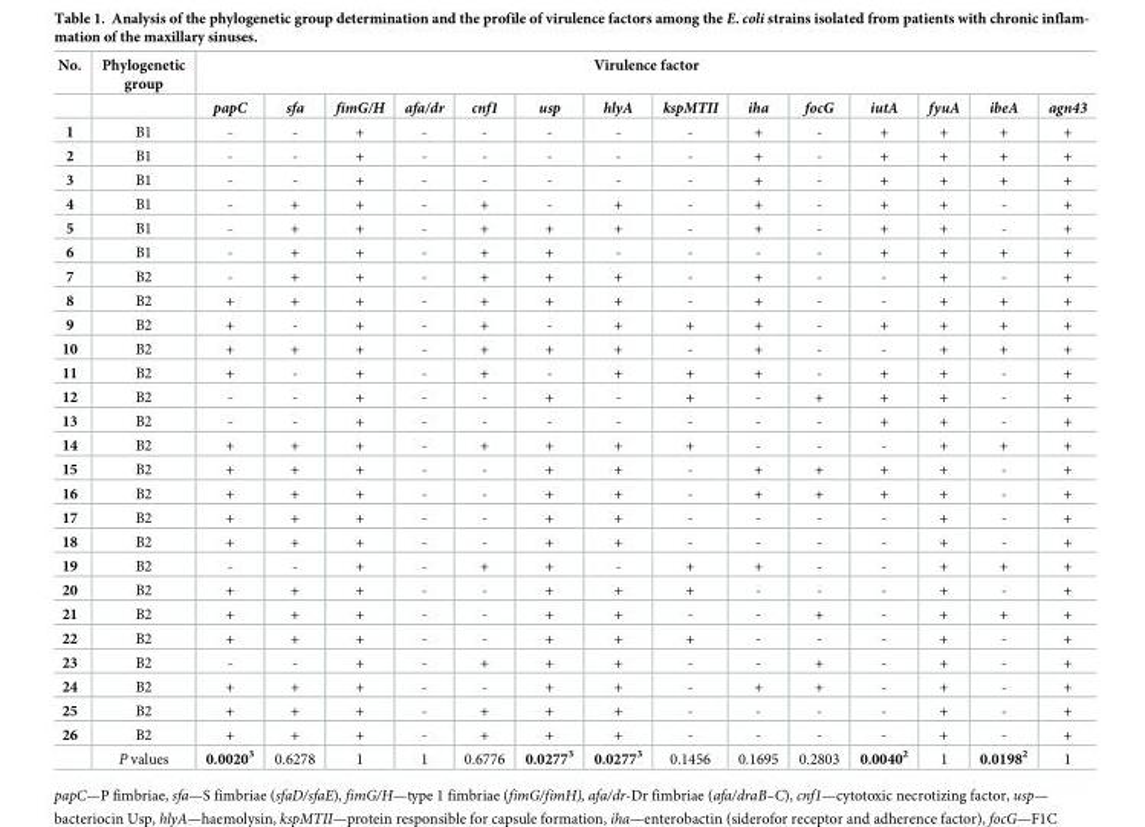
<table><thead><tr><td rowspan="2">No.</td><td rowspan="2">Phylogenetic group</td><td colspan="14">Virulence factor</td></tr><tr><td>papC</td><td>sfa</td><td>fimG/H</td><td>afa/dr</td><td>cnf1</td><td>usp</td><td>hlyA</td><td>kspMTII</td><td>iha</td><td>focG</td><td>iutA</td><td>fyuA</td><td>ibeA</td><td>agn43</td></tr></thead><tbody><tr><td>1</td><td>B1</td><td>-</td><td>-</td><td>+</td><td>-</td><td>-</td><td>-</td><td>-</td><td>-</td><td>+</td><td>-</td><td>+</td><td>+</td><td>+</td><td>+</td></tr><tr><td>2</td><td>B1</td><td>-</td><td>-</td><td>+</td><td>-</td><td>-</td><td>-</td><td>-</td><td>-</td><td>+</td><td>-</td><td>+</td><td>+</td><td>+</td><td>+</td></tr><tr><td>3</td><td>B1</td><td>-</td><td>-</td><td>+</td><td>-</td><td>-</td><td>-</td><td>-</td><td>-</td><td>+</td><td>-</td><td>+</td><td>+</td><td>+</td><td>+</td></tr><tr><td>4</td><td>B1</td><td>-</td><td>+</td><td>+</td><td>-</td><td>+</td><td>-</td><td>+</td><td>-</td><td>+</td><td>-</td><td>+</td><td>+</td><td>-</td><td>+</td></tr><tr><td>5</td><td>B1</td><td>-</td><td>+</td><td>+</td><td>-</td><td>+</td><td>+</td><td>+</td><td>-</td><td>+</td><td>-</td><td>+</td><td>+</td><td>-</td><td>+</td></tr><tr><td>6</td><td>B1</td><td>-</td><td>+</td><td>+</td><td>-</td><td>+</td><td>+</td><td>-</td><td>-</td><td>-</td><td>-</td><td>+</td><td>+</td><td>+</td><td>+</td></tr><tr><td>7</td><td>B2</td><td>-</td><td>+</td><td>+</td><td>-</td><td>+</td><td>+</td><td>+</td><td>-</td><td>+</td><td>-</td><td>-</td><td>+</td><td>-</td><td>+</td></tr><tr><td>8</td><td>B2</td><td>+</td><td>+</td><td>+</td><td>-</td><td>+</td><td>+</td><td>+</td><td>-</td><td>+</td><td>-</td><td>-</td><td>+</td><td>+</td><td>+</td></tr><tr><td>9</td><td>B2</td><td>+</td><td>-</td><td>+</td><td>-</td><td>+</td><td>-</td><td>+</td><td>+</td><td>+</td><td>-</td><td>+</td><td>+</td><td>+</td><td>+</td></tr><tr><td>10</td><td>B2</td><td>+</td><td>+</td><td>+</td><td>-</td><td>+</td><td>+</td><td>+</td><td>-</td><td>+</td><td>-</td><td>-</td><td>+</td><td>+</td><td>+</td></tr><tr><td>11</td><td>B2</td><td>+</td><td>-</td><td>+</td><td>-</td><td>+</td><td>-</td><td>+</td><td>+</td><td>+</td><td>-</td><td>+</td><td>+</td><td>-</td><td>+</td></tr><tr><td>12</td><td>B2</td><td>-</td><td>-</td><td>+</td><td>-</td><td>-</td><td>+</td><td>-</td><td>+</td><td>-</td><td>+</td><td>+</td><td>+</td><td>-</td><td>+</td></tr><tr><td>13</td><td>B2</td><td>-</td><td>-</td><td>+</td><td>-</td><td>-</td><td>-</td><td>-</td><td>-</td><td>-</td><td>-</td><td>+</td><td>+</td><td>-</td><td>+</td></tr><tr><td>14</td><td>B2</td><td>+</td><td>+</td><td>+</td><td>-</td><td>+</td><td>+</td><td>+</td><td>+</td><td>-</td><td>-</td><td>-</td><td>+</td><td>+</td><td>+</td></tr><tr><td>15</td><td>B2</td><td>+</td><td>+</td><td>+</td><td>-</td><td>-</td><td>+</td><td>+</td><td>-</td><td>+</td><td>+</td><td>+</td><td>+</td><td>-</td><td>+</td></tr><tr><td>16</td><td>B2</td><td>+</td><td>+</td><td>+</td><td>-</td><td>-</td><td>+</td><td>+</td><td>-</td><td>+</td><td>+</td><td>+</td><td>+</td><td>-</td><td>+</td></tr><tr><td>17</td><td>B2</td><td>+</td><td>+</td><td>+</td><td>-</td><td>-</td><td>+</td><td>+</td><td>-</td><td>-</td><td>-</td><td>-</td><td>+</td><td>-</td><td>+</td></tr><tr><td>18</td><td>B2</td><td>+</td><td>+</td><td>+</td><td>-</td><td>-</td><td>+</td><td>+</td><td>-</td><td>-</td><td>-</td><td>-</td><td>+</td><td>-</td><td>+</td></tr><tr><td>19</td><td>B2</td><td>-</td><td>-</td><td>+</td><td>-</td><td>+</td><td>+</td><td>-</td><td>+</td><td>+</td><td>-</td><td>-</td><td>+</td><td>+</td><td>+</td></tr><tr><td>20</td><td>B2</td><td>+</td><td>+</td><td>+</td><td>-</td><td>-</td><td>+</td><td>+</td><td>+</td><td>-</td><td>-</td><td>-</td><td>+</td><td>-</td><td>+</td></tr><tr><td>21</td><td>B2</td><td>+</td><td>+</td><td>+</td><td>-</td><td>-</td><td>+</td><td>+</td><td>-</td><td>-</td><td>+</td><td>-</td><td>+</td><td>+</td><td>+</td></tr><tr><td>22</td><td>B2</td><td>+</td><td>+</td><td>+</td><td>-</td><td>-</td><td>+</td><td>+</td><td>+</td><td>-</td><td>-</td><td>-</td><td>+</td><td>-</td><td>+</td></tr><tr><td>23</td><td>B2</td><td>-</td><td>-</td><td>+</td><td>-</td><td>+</td><td>+</td><td>+</td><td>-</td><td>-</td><td>+</td><td>-</td><td>+</td><td>-</td><td>+</td></tr><tr><td>24</td><td>B2</td><td>+</td><td>+</td><td>+</td><td>-</td><td>-</td><td>+</td><td>+</td><td>-</td><td>+</td><td>+</td><td>-</td><td>+</td><td>-</td><td>+</td></tr><tr><td>25</td><td>B2</td><td>+</td><td>+</td><td>+</td><td>-</td><td>+</td><td>+</td><td>+</td><td>-</td><td>-</td><td>-</td><td>-</td><td>+</td><td>-</td><td>+</td></tr><tr><td rowspan="2">26</td><td>B2</td><td>+</td><td>+</td><td>+</td><td>-</td><td>+</td><td>+</td><td>+</td><td>-</td><td>-</td><td>-</td><td>-</td><td>+</td><td>-</td><td>+</td></tr><tr><td>P values</td><td>0.0020<sup>3</sup></td><td>0.6278</td><td>1</td><td>1</td><td>0.6776</td><td>0.0277<sup>3</sup></td><td>0.0277<sup>3</sup></td><td>0.1456</td><td>0.1695</td><td>0.2803</td><td>0.0040<sup>2</sup></td><td>1</td><td>0.0198<sup>2</sup></td><td>1</td></tr></tbody></table>